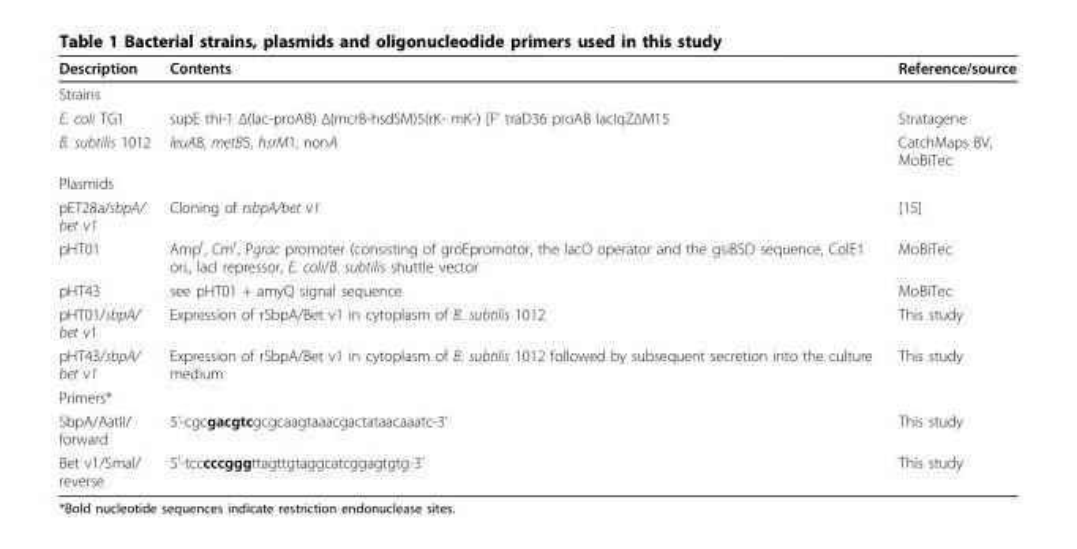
<table><thead><tr><td>Description</td><td>Contents</td><td>Reference/source</td></tr></thead><tbody><tr><td colspan="3">Strains</td></tr><tr><td>E. coli TG1</td><td>supE thi-1 Δ(lac-proAB) Δ(mcrB-hsdSM)5(rK- mK-) [F’ traD36 proAB lacIqZΔM15</td><td>Stratagene</td></tr><tr><td>B. subtilis 1012</td><td>leuA8, metB5, hsrM1, nonA</td><td>CatchMaps BV, MoBiTec</td></tr><tr><td colspan="3">Plasmids</td></tr><tr><td>pET28a/sbpA/ bet v1</td><td>Cloning of rsbpA/bet v1</td><td>[15]</td></tr><tr><td>pHT01</td><td>Amp<sup>r</sup>, Cm<sup>r</sup>, Pgrac promoter (consisting of groEpromotor, the lacO operator and the gsiBSD sequence, ColE1 ori,, lacI repressor, E. coli/B. subtilis shuttle vector</td><td>MoBiTec</td></tr><tr><td>pHT43</td><td>see pHT01 + amyQ signal sequence</td><td>MoBiTec</td></tr><tr><td>pHT01/sbpA/ bet v1</td><td>Expression of rSbpA/Bet v1 in cytoplasm of B. subtilis 1012</td><td>This study</td></tr><tr><td>pHT43/sbpA/ bet v1</td><td>Expression of rSbpA/Bet v1 in cytoplasm of B. subtilis 1012 followed by subsequent secretion into the culture medium</td><td>This study</td></tr><tr><td colspan="3">Primers*</td></tr><tr><td>SbpA/AatII/ forward</td><td>5’-cgcgacgtcgcgcaagtaaacgactataacaaatc-3’</td><td>This study</td></tr><tr><td>Bet v1/SmaI/ reverse</td><td>5’-tcccccgggttagttgtaggcatcggagtgtg-3’</td><td>This study</td></tr></tbody></table>